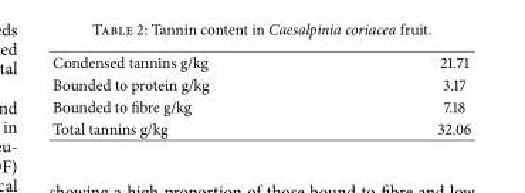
<table><tbody><tr><td>Condensed tannins g/kg</td><td>21.71</td></tr><tr><td>Bounded to protein g/kg</td><td>3.17</td></tr><tr><td>Bounded to fibre g/kg</td><td>7.18</td></tr><tr><td>Total tannins g/kg</td><td>32.06</td></tr></tbody></table>